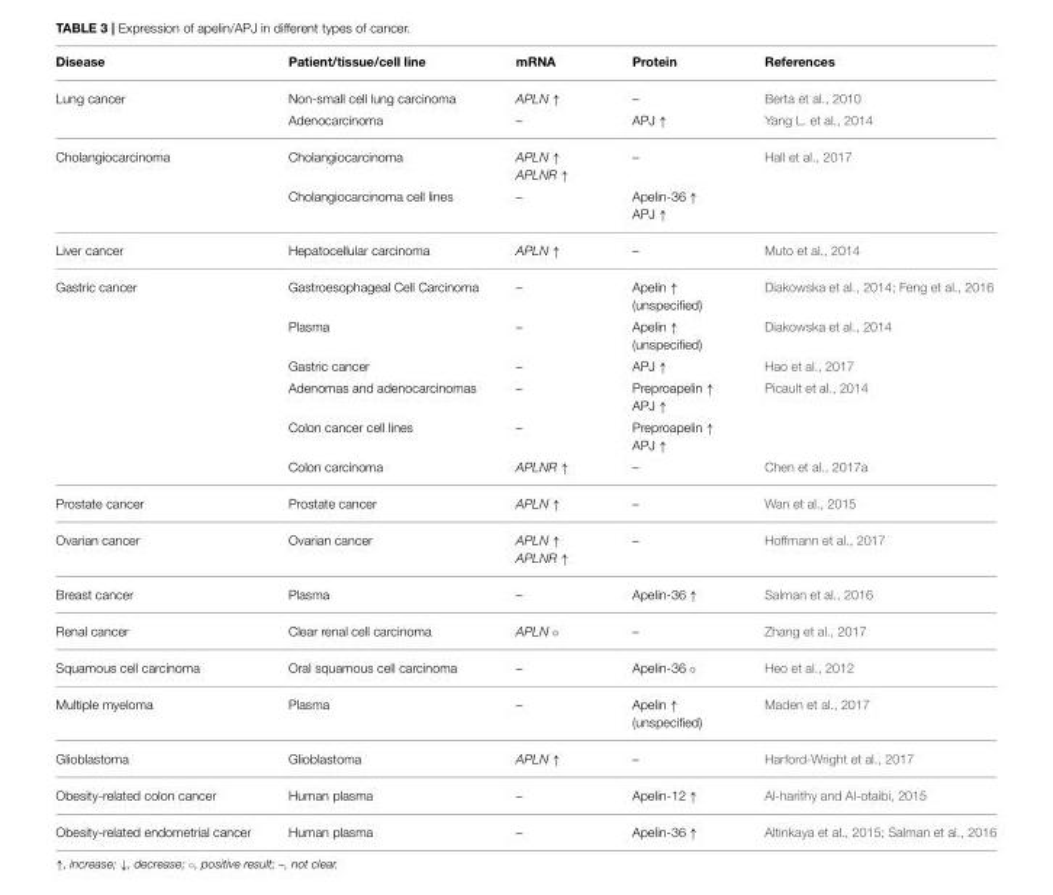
<table><thead><tr><td>Disease</td><td>Patient/tissue/cell line</td><td>mRNA</td><td>Protein</td><td>References</td></tr></thead><tbody><tr><td rowspan="2">Lung cancer</td><td>Non-small cell lung carcinoma</td><td>APLN ↑</td><td>–</td><td>Berta et al., 2010</td></tr><tr><td>Adenocarcinoma</td><td>–</td><td>APJ ↑</td><td>Yang L. et al., 2014</td></tr><tr><td rowspan="2">Cholangiocarcinoma</td><td>Cholangiocarcinoma</td><td>APLN ↑ APLNR ↑</td><td>–</td><td>Hall et al., 2017</td></tr><tr><td>Cholangiocarcinoma cell lines</td><td>–</td><td>Apelin-36 ↑ APJ ↑</td><td></td></tr><tr><td>Liver cancer</td><td>Hepatocellular carcinoma</td><td>APLN ↑</td><td>–</td><td>Muto et al., 2014</td></tr><tr><td rowspan="6">Gastric cancer</td><td>Gastroesophageal Cell Carcinoma</td><td>–</td><td>Apelin ↑ (unspecified)</td><td>Diakowska et al., 2014; Feng et al., 2016</td></tr><tr><td>Plasma</td><td>–</td><td>Apelin ↑ (unspecified)</td><td>Diakowska et al., 2014</td></tr><tr><td>Gastric cancer</td><td>–</td><td>APJ ↑</td><td>Hao et al., 2017</td></tr><tr><td>Adenomas and adenocarcinomas</td><td>–</td><td>Preproapelin ↑ APJ ↑</td><td>Picault et al., 2014</td></tr><tr><td>Colon cancer cell lines</td><td>–</td><td>Preproapelin ↑ APJ ↑</td><td></td></tr><tr><td>Colon carcinoma</td><td>APLNR ↑</td><td>–</td><td>Chen et al., 2017a</td></tr><tr><td>Prostate cancer</td><td>Prostate cancer</td><td>APLN ↑</td><td>–</td><td>Wan et al., 2015</td></tr><tr><td>Ovarian cancer</td><td>Ovarian cancer</td><td>APLN ↑ APLNR ↑</td><td>–</td><td>Hoffmann et al., 2017</td></tr><tr><td>Breast cancer</td><td>Plasma</td><td>–</td><td>Apelin-36 ↑</td><td>Salman et al., 2016</td></tr><tr><td>Renal cancer</td><td>Clear renal cell carcinoma</td><td>APLN <sub>◦</sub></td><td>–</td><td>Zhang et al., 2017</td></tr><tr><td>Squamous cell carcinoma</td><td>Oral squamous cell carcinoma</td><td>–</td><td>Apelin-36 ◦</td><td>Heo et al., 2012</td></tr><tr><td>Multiple myeloma</td><td>Plasma</td><td>–</td><td>Apelin ↑ (unspecified)</td><td>Maden et al., 2017</td></tr><tr><td>Glioblastoma</td><td>Glioblastoma</td><td>APLN ↑</td><td>–</td><td>Harford-Wright et al., 2017</td></tr><tr><td>Obesity-related colon cancer</td><td>Human plasma</td><td>–</td><td>Apelin-12 ↑</td><td>Al-harithy and Al-otaibi, 2015</td></tr><tr><td>Obesity-related endometrial cancer</td><td>Human plasma</td><td>–</td><td>Apelin-36 ↑</td><td>Altinkaya et al., 2015; Salman et al., 2016</td></tr></tbody></table>